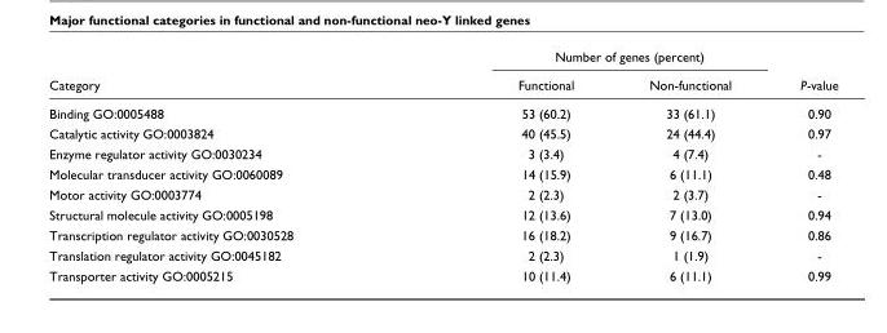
<table><thead><tr><td rowspan="2">Category</td><td colspan="2">Number of genes (percent)</td><td rowspan="2">P-value</td></tr><tr><td>Functional</td><td>Non-functional</td></tr></thead><tbody><tr><td>Binding GO:0005488</td><td>53 (60.2)</td><td>33 (61.1)</td><td>0.90</td></tr><tr><td>Catalytic activity GO:0003824</td><td>40 (45.5)</td><td>24 (44.4)</td><td>0.97</td></tr><tr><td>Enzyme regulator activity GO:0030234</td><td>3 (3.4)</td><td>4 (7.4)</td><td>-</td></tr><tr><td>Molecular transducer activity GO:0060089</td><td>14 (15.9)</td><td>6 (11.1)</td><td>0.48</td></tr><tr><td>Motor activity GO:0003774</td><td>2 (2.3)</td><td>2 (3.7)</td><td>-</td></tr><tr><td>Structural molecule activity GO:0005198</td><td>12 (13.6)</td><td>7 (13.0)</td><td>0.94</td></tr><tr><td>Transcription regulator activity GO:0030528</td><td>16 (18.2)</td><td>9 (16.7)</td><td>0.86</td></tr><tr><td>Translation regulator activity GO:0045182</td><td>2 (2.3)</td><td>1 (1.9)</td><td>-</td></tr><tr><td>Transporter activity GO:0005215</td><td>10 (11.4)</td><td>6 (11.1)</td><td>0.99</td></tr></tbody></table>